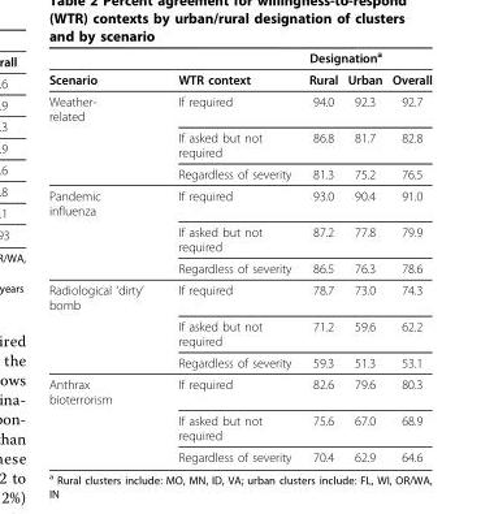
<table><thead><tr><td rowspan="2">Scenario</td><td rowspan="2">WTR context</td><td colspan="2">Designation<sup>a</sup></td><td rowspan="2">Overall</td></tr><tr><td>Rural</td><td>Urban</td></tr></thead><tbody><tr><td rowspan="3">Weather- related</td><td>If required</td><td>94.0</td><td>92.3</td><td>92.7</td></tr><tr><td>If asked but not required</td><td>86.8</td><td>81.7</td><td>82.8</td></tr><tr><td>Regardless of severity</td><td>81.3</td><td>75.2</td><td>76.5</td></tr><tr><td rowspan="3">Pandemic influenza</td><td>If required</td><td>93.0</td><td>90.4</td><td>91.0</td></tr><tr><td>If asked but not required</td><td>87.2</td><td>77.8</td><td>79.9</td></tr><tr><td>Regardless of severity</td><td>86.5</td><td>76.3</td><td>78.6</td></tr><tr><td rowspan="3">Radiological ‘dirty’ bomb</td><td>If required</td><td>78.7</td><td>73.0</td><td>74.3</td></tr><tr><td>If asked but not required</td><td>71.2</td><td>59.6</td><td>62.2</td></tr><tr><td>Regardless of severity</td><td>59.3</td><td>51.3</td><td>53.1</td></tr><tr><td rowspan="3">Anthrax bioterrorism</td><td>If required</td><td>82.6</td><td>79.6</td><td>80.3</td></tr><tr><td>If asked but not required</td><td>75.6</td><td>67.0</td><td>68.9</td></tr><tr><td>Regardless of severity</td><td>70.4</td><td>62.9</td><td>64.6</td></tr></tbody></table>